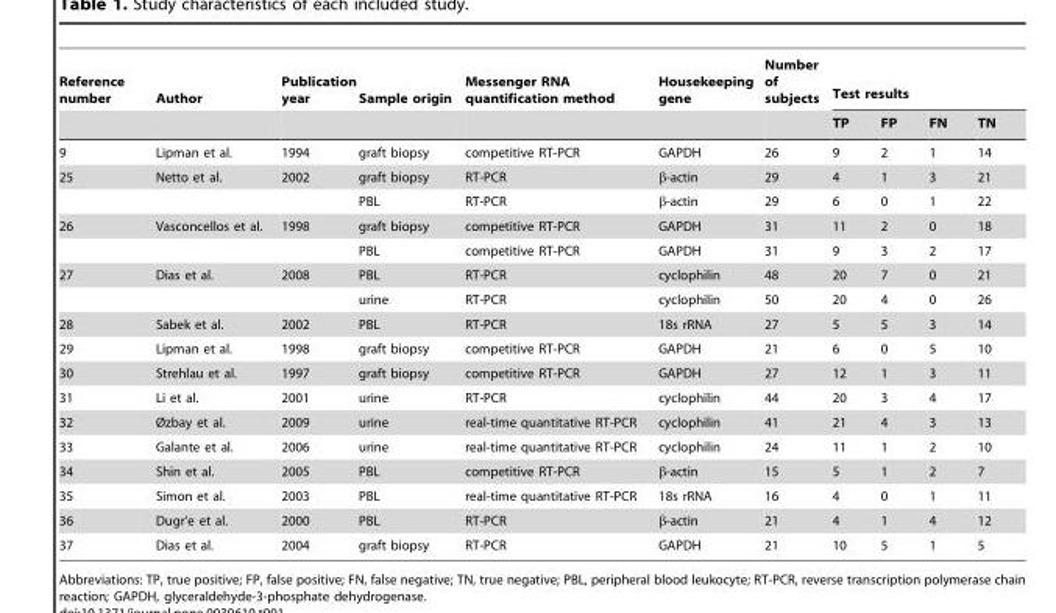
<table><thead><tr><td rowspan="2">Reference number</td><td rowspan="2">Author</td><td rowspan="2">Publication year</td><td rowspan="2">Sample origin</td><td rowspan="2">Messenger RNA quantification method</td><td rowspan="2">Housekeeping gene</td><td rowspan="2">Number of subjects</td><td colspan="4">Test results</td></tr><tr><td>TP</td><td>FP</td><td>FN</td><td>TN</td></tr></thead><tbody><tr><td>9</td><td>Lipman et al.</td><td>1994</td><td>graft biopsy</td><td>competitive RT-PCR</td><td>GAPDH</td><td>26</td><td>9</td><td>2</td><td>1</td><td>14</td></tr><tr><td rowspan="2">25</td><td>Netto et al.</td><td>2002</td><td>graft biopsy</td><td>RT-PCR</td><td>β-actin</td><td>29</td><td>4</td><td>1</td><td>3</td><td>21</td></tr><tr><td></td><td></td><td>PBL</td><td>RT-PCR</td><td>β-actin</td><td>29</td><td>6</td><td>0</td><td>1</td><td>22</td></tr><tr><td rowspan="2">26</td><td>Vasconcellos et al.</td><td>1998</td><td>graft biopsy</td><td>competitive RT-PCR</td><td>GAPDH</td><td>31</td><td>11</td><td>2</td><td>0</td><td>18</td></tr><tr><td></td><td></td><td>PBL</td><td>competitive RT-PCR</td><td>GAPDH</td><td>31</td><td>9</td><td>3</td><td>2</td><td>17</td></tr><tr><td rowspan="2">27</td><td>Dias et al.</td><td>2008</td><td>PBL</td><td>RT-PCR</td><td>cyclophilin</td><td>48</td><td>20</td><td>7</td><td>0</td><td>21</td></tr><tr><td></td><td></td><td>urine</td><td>RT-PCR</td><td>cyclophilin</td><td>50</td><td>20</td><td>4</td><td>0</td><td>26</td></tr><tr><td>28</td><td>Sabek et al.</td><td>2002</td><td>PBL</td><td>RT-PCR</td><td>18s rRNA</td><td>27</td><td>5</td><td>5</td><td>3</td><td>14</td></tr><tr><td>29</td><td>Lipman et al.</td><td>1998</td><td>graft biopsy</td><td>competitive RT-PCR</td><td>GAPDH</td><td>21</td><td>6</td><td>0</td><td>5</td><td>10</td></tr><tr><td>30</td><td>Strehlau et al.</td><td>1997</td><td>graft biopsy</td><td>competitive RT-PCR</td><td>GAPDH</td><td>27</td><td>12</td><td>1</td><td>3</td><td>11</td></tr><tr><td>31</td><td>Li et al.</td><td>2001</td><td>urine</td><td>RT-PCR</td><td>cyclophilin</td><td>44</td><td>20</td><td>3</td><td>4</td><td>17</td></tr><tr><td>32</td><td>Øzbay et al.</td><td>2009</td><td>urine</td><td>real-time quantitative RT-PCR</td><td>cyclophilin</td><td>41</td><td>21</td><td>4</td><td>3</td><td>13</td></tr><tr><td>33</td><td>Galante et al.</td><td>2006</td><td>urine</td><td>real-time quantitative RT-PCR</td><td>cyclophilin</td><td>24</td><td>11</td><td>1</td><td>2</td><td>10</td></tr><tr><td>34</td><td>Shin et al.</td><td>2005</td><td>PBL</td><td>competitive RT-PCR</td><td>β-actin</td><td>15</td><td>5</td><td>1</td><td>2</td><td>7</td></tr><tr><td>35</td><td>Simon et al.</td><td>2003</td><td>PBL</td><td>real-time quantitative RT-PCR</td><td>18s rRNA</td><td>16</td><td>4</td><td>0</td><td>1</td><td>11</td></tr><tr><td>36</td><td>Dugr’e et al.</td><td>2000</td><td>PBL</td><td>RT-PCR</td><td>β-actin</td><td>21</td><td>4</td><td>1</td><td>4</td><td>12</td></tr><tr><td>37</td><td>Dias et al.</td><td>2004</td><td>graft biopsy</td><td>RT-PCR</td><td>GAPDH</td><td>21</td><td>10</td><td>5</td><td>1</td><td>5</td></tr></tbody></table>